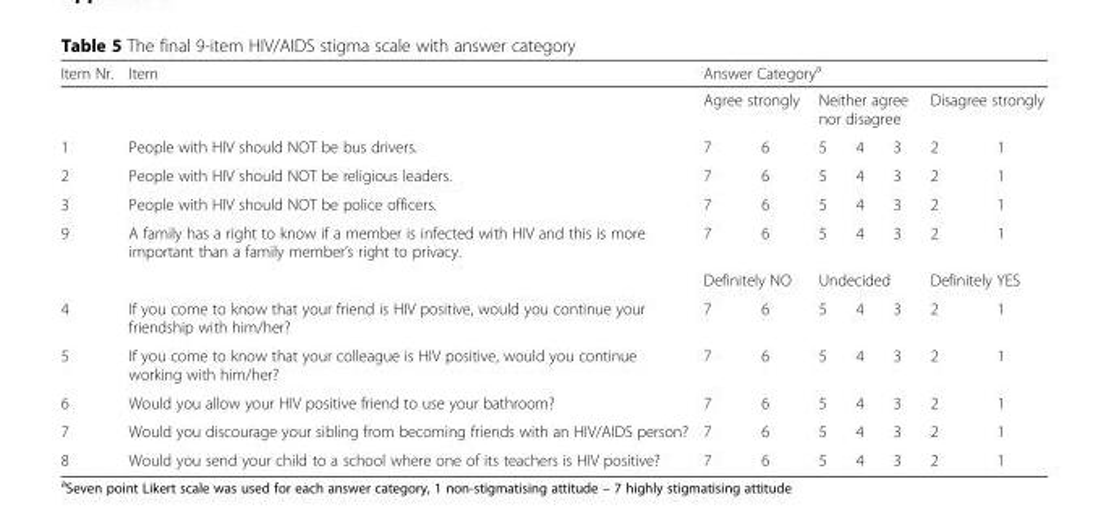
<table><thead><tr><td rowspan="3">Item Nr. 1</td><td rowspan="3">Item People with HIV should NOT be bus drivers.</td><td colspan="7">Answer Category<sup>a</sup></td></tr><tr><td colspan="2">Agree strongly</td><td colspan="3">Neither agree nor disagree</td><td colspan="2">Disagree strongly</td></tr><tr><td>7</td><td>6</td><td>5</td><td>4</td><td>3</td><td>2</td><td>1</td></tr></thead><tbody><tr><td>2</td><td>People with HIV should NOT be religious leaders.</td><td>7</td><td>6</td><td>5</td><td>4</td><td>3</td><td>2</td><td>1</td></tr><tr><td>3</td><td>People with HIV should NOT be police officers.</td><td>7</td><td>6</td><td>5</td><td>4</td><td>3</td><td>2</td><td>1</td></tr><tr><td rowspan="2">9</td><td>A family has a right to know if a member is infected with HIV and this is more important than a family member’s right to privacy.</td><td>7</td><td>6</td><td>5</td><td>4</td><td>3</td><td>2</td><td>1</td></tr><tr><td></td><td colspan="2">Definitely NO</td><td colspan="3">Undecided</td><td colspan="2">Definitely YES</td></tr><tr><td>4</td><td>If you come to know that your friend is HIV positive, would you continue your friendship with him/her?</td><td>7</td><td>6</td><td>5</td><td>4</td><td>3</td><td>2</td><td>1</td></tr><tr><td>5</td><td>If you come to know that your colleague is HIV positive, would you continue working with him/her?</td><td>7</td><td>6</td><td>5</td><td>4</td><td>3</td><td>2</td><td>1</td></tr><tr><td>6</td><td>Would you allow your HIV positive friend to use your bathroom?</td><td>7</td><td>6</td><td>5</td><td>4</td><td>3</td><td>2</td><td>1</td></tr><tr><td>7</td><td>Would you discourage your sibling from becoming friends with an HIV/AIDS person?</td><td>7</td><td>6</td><td>5</td><td>4</td><td>3</td><td>2</td><td>1</td></tr><tr><td>8</td><td>Would you send your child to a school where one of its teachers is HIV positive?</td><td>7</td><td>6</td><td>5</td><td>4</td><td>3</td><td>2</td><td>1</td></tr></tbody></table>